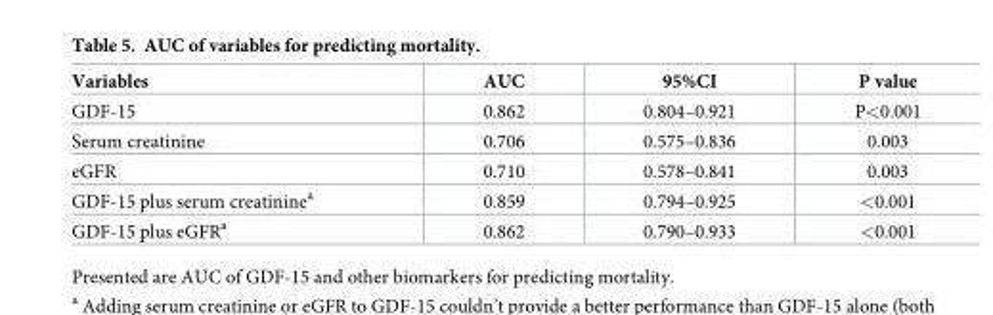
<table><thead><tr><td>Variables</td><td>AUC</td><td>95%CI</td><td>P value</td></tr></thead><tbody><tr><td>GDF-15</td><td>0.862</td><td>0.804–0.921</td><td>P&lt;0.001</td></tr><tr><td>Serum creatinine</td><td>0.706</td><td>0.575–0.836</td><td>0.003</td></tr><tr><td>eGFR</td><td>0.710</td><td>0.578–0.841</td><td>0.003</td></tr><tr><td>GDF-15 plus serum creatinine<sup>a</sup></td><td>0.859</td><td>0.794–0.925</td><td>&lt;0.001</td></tr><tr><td>GDF-15 plus eGFR<sup>a</sup></td><td>0.862</td><td>0.790–0.933</td><td>&lt;0.001</td></tr></tbody></table>